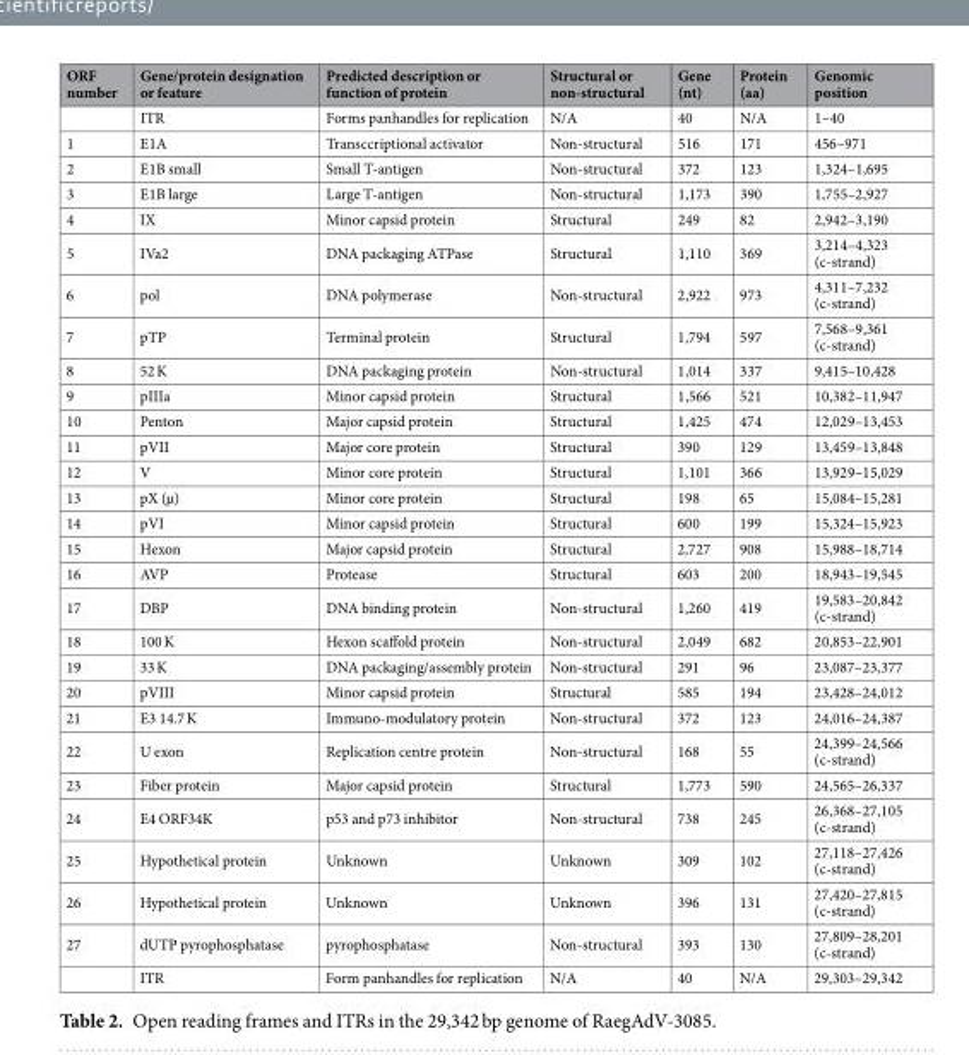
<table><thead><tr><td>ORF number</td><td>Gene/protein designation or feature</td><td>Predicted description or function of protein</td><td>Structural or non-structural</td><td>Gene (nt)</td><td>Protein (aa)</td><td>Genomic position</td></tr></thead><tbody><tr><td></td><td>ITR</td><td>Forms panhandles for replication</td><td>N/A</td><td>40</td><td>N/A</td><td>1–40</td></tr><tr><td>1</td><td>E1A</td><td>Transccriptional activator</td><td>Non-structural</td><td>516</td><td>171</td><td>456–971</td></tr><tr><td>2</td><td>E1B small</td><td>Small T-antigen</td><td>Non-structural</td><td>372</td><td>123</td><td>1,324–1,695</td></tr><tr><td>3</td><td>E1B large</td><td>Large T-antigen</td><td>Non-structural</td><td>1,173</td><td>390</td><td>1,755–2,927</td></tr><tr><td>4</td><td>IX</td><td>Minor capsid protein</td><td>Structural</td><td>249</td><td>82</td><td>2,942–3,190</td></tr><tr><td>5</td><td>IVa2</td><td>DNA packaging ATPase</td><td>Structural</td><td>1,110</td><td>369</td><td>3,214–4,323 (c-strand)</td></tr><tr><td>6</td><td>pol</td><td>DNA polymerase</td><td>Non-structural</td><td>2,922</td><td>973</td><td>4,311–7,232 (c-strand)</td></tr><tr><td>7</td><td>pTP</td><td>Terminal protein</td><td>Structural</td><td>1,794</td><td>597</td><td>7,568–9,361 (c-strand)</td></tr><tr><td>8</td><td>52 K</td><td>DNA packaging protein</td><td>Non-structural</td><td>1,014</td><td>337</td><td>9,415–10,428</td></tr><tr><td>9</td><td>pIIIa</td><td>Minor capsid protein</td><td>Structural</td><td>1,566</td><td>521</td><td>10,382–11,947</td></tr><tr><td>10</td><td>Penton</td><td>Major capsid protein</td><td>Structural</td><td>1,425</td><td>474</td><td>12,029–13,453</td></tr><tr><td>11</td><td>pVII</td><td>Major core protein</td><td>Structural</td><td>390</td><td>129</td><td>13,459–13,848</td></tr><tr><td>12</td><td>V</td><td>Minor core protein</td><td>Structural</td><td>1,101</td><td>366</td><td>13,929–15,029</td></tr><tr><td>13</td><td>pX (µ)</td><td>Minor core protein</td><td>Structural</td><td>198</td><td>65</td><td>15,084–15,281</td></tr><tr><td>14</td><td>pVI</td><td>Minor capsid protein</td><td>Structural</td><td>600</td><td>199</td><td>15,324–15,923</td></tr><tr><td>15</td><td>Hexon</td><td>Major capsid protein</td><td>Structural</td><td>2,727</td><td>908</td><td>15,988–18,714</td></tr><tr><td>16</td><td>AVP</td><td>Protease</td><td>Structural</td><td>603</td><td>200</td><td>18,943–19,545</td></tr><tr><td>17</td><td>DBP</td><td>DNA binding protein</td><td>Non-structural</td><td>1,260</td><td>419</td><td>19,583–20,842 (c-strand)</td></tr><tr><td>18</td><td>100 K</td><td>Hexon scaffold protein</td><td>Non-structural</td><td>2,049</td><td>682</td><td>20,853–22,901</td></tr><tr><td>19</td><td>33 K</td><td>DNA packaging/assembly protein</td><td>Non-structural</td><td>291</td><td>96</td><td>23,087–23,377</td></tr><tr><td>20</td><td>pVIII</td><td>Minor capsid protein</td><td>Structural</td><td>585</td><td>194</td><td>23,428–24,012</td></tr><tr><td>21</td><td>E3 14.7 K</td><td>Immuno-modulatory protein</td><td>Non-structural</td><td>372</td><td>123</td><td>24,016–24,387</td></tr><tr><td>22</td><td>U exon</td><td>Replication centre protein</td><td>Non-structural</td><td>168</td><td>55</td><td>24,399–24,566 (c-strand)</td></tr><tr><td>23</td><td>Fiber protein</td><td>Major capsid protein</td><td>Structural</td><td>1,773</td><td>590</td><td>24,565–26,337</td></tr><tr><td>24</td><td>E4 ORF34K</td><td>p53 and p73 inhibitor</td><td>Non-structural</td><td>738</td><td>245</td><td>26,368–27,105 (c-strand)</td></tr><tr><td>25</td><td>Hypothetical protein</td><td>Unknown</td><td>Unknown</td><td>309</td><td>102</td><td>27,118–27,426 (c-strand)</td></tr><tr><td>26</td><td>Hypothetical protein</td><td>Unknown</td><td>Unknown</td><td>396</td><td>131</td><td>27,420–27,815 (c-strand)</td></tr><tr><td rowspan="2">27</td><td>dUTP pyrophosphatase</td><td>pyrophosphatase</td><td>Non-structural</td><td>393</td><td>130</td><td>27,809–28,201 (c-strand)</td></tr><tr><td>ITR</td><td>Form panhandles for replication</td><td>N/A</td><td>40</td><td>N/A</td><td>29,303–29,342</td></tr></tbody></table>